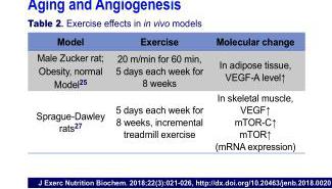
<table><thead><tr><td>Model</td><td>Exercise</td><td>Molecular change</td></tr></thead><tbody><tr><td>Male Zucker rat; Obesity, normal Model<sup>25</sup></td><td>20 m/min for 60 min, 5 days each week for 8 weeks</td><td>In adipose tissue, VEGF-A level↑</td></tr><tr><td>Sprague-Dawley rats<sup>27</sup></td><td>5 days each week for 8 weeks, incremental treadmill exercise</td><td>In skeletal muscle, VEGF↑ mTOR-C↑ mTOR↑ (mRNA expression)</td></tr></tbody></table>